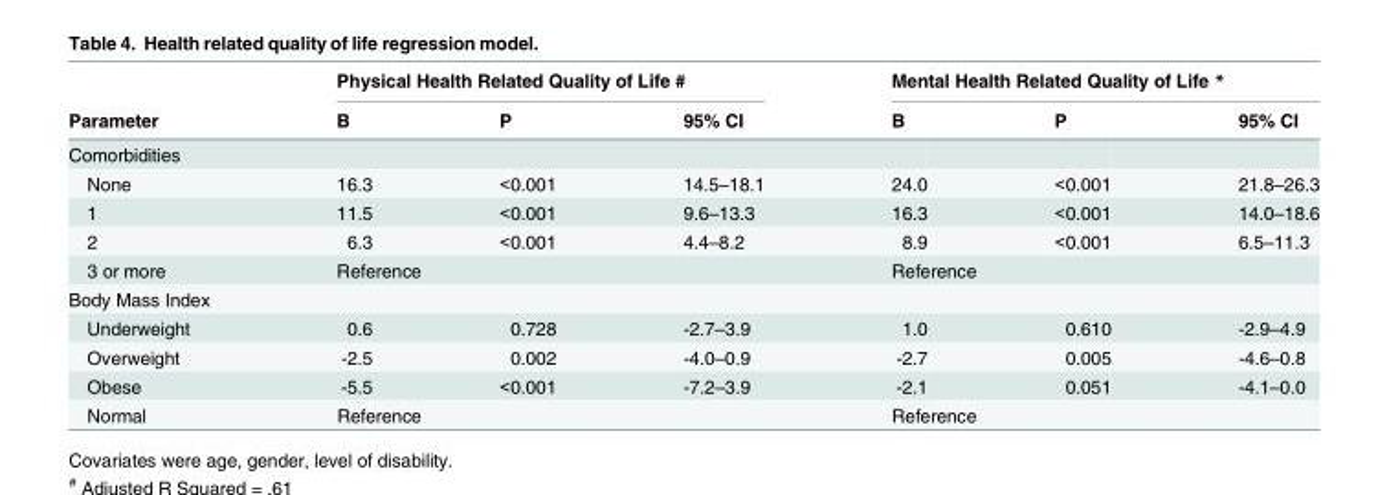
<table><thead><tr><td rowspan="2">Parameter</td><td colspan="3">Physical Health Related Quality of Life #</td><td colspan="3">Mental Health Related Quality of Life *</td></tr><tr><td>B</td><td>P</td><td>95% CI</td><td>B</td><td>P</td><td>95% CI</td></tr></thead><tbody><tr><td colspan="7">Comorbidities</td></tr><tr><td>None</td><td>16.3</td><td>&lt;0.001</td><td>14.5–18.1</td><td>24.0</td><td>&lt;0.001</td><td>21.8–26.3</td></tr><tr><td>1</td><td>11.5</td><td>&lt;0.001</td><td>9.6–13.3</td><td>16.3</td><td>&lt;0.001</td><td>14.0–18.6</td></tr><tr><td>2</td><td>6.3</td><td>&lt;0.001</td><td>4.4–8.2</td><td>8.9</td><td>&lt;0.001</td><td>6.5–11.3</td></tr><tr><td>3 or more</td><td colspan="3">Reference</td><td colspan="3">Reference</td></tr><tr><td colspan="7">Body Mass Index</td></tr><tr><td>Underweight</td><td>0.6</td><td>0.728</td><td>-2.7–3.9</td><td>1.0</td><td>0.610</td><td>-2.9–4.9</td></tr><tr><td>Overweight</td><td>-2.5</td><td>0.002</td><td>-4.0–0.9</td><td>-2.7</td><td>0.005</td><td>-4.6–0.8</td></tr><tr><td>Obese</td><td>-5.5</td><td>&lt;0.001</td><td>-7.2–3.9</td><td>-2.1</td><td>0.051</td><td>-4.1–0.0</td></tr><tr><td>Normal</td><td colspan="3">Reference</td><td colspan="3">Reference</td></tr></tbody></table>